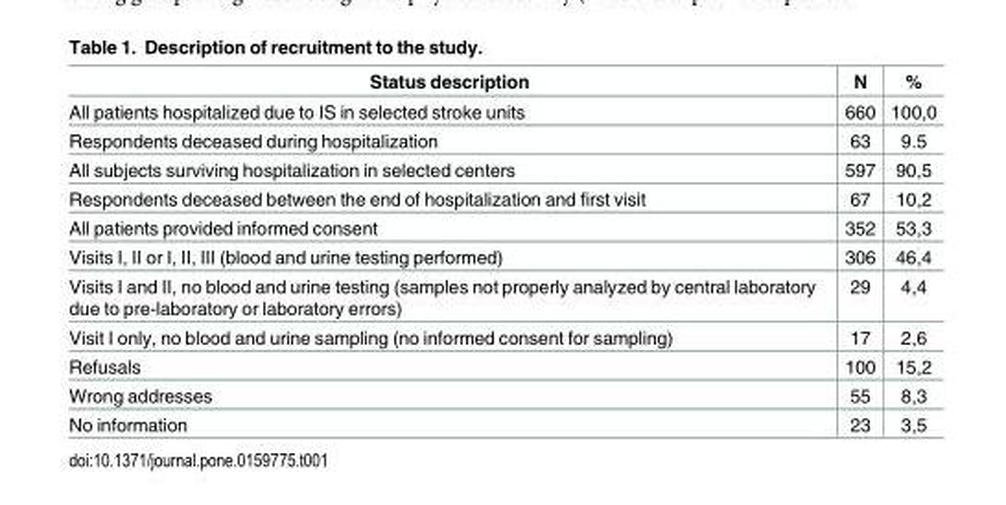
<table><thead><tr><td>Status description</td><td>N</td><td>%</td></tr></thead><tbody><tr><td>All patients hospitalized due to IS in selected stroke units</td><td>660</td><td>100,0</td></tr><tr><td>Respondents deceased during hospitalization</td><td>63</td><td>9.5</td></tr><tr><td>All subjects surviving hospitalization in selected centers</td><td>597</td><td>90,5</td></tr><tr><td>Respondents deceased between the end of hospitalization and first visit</td><td>67</td><td>10,2</td></tr><tr><td>All patients provided informed consent</td><td>352</td><td>53,3</td></tr><tr><td>Visits I, II or I, II, III (blood and urine testing performed)</td><td>306</td><td>46,4</td></tr><tr><td>Visits I and II, no blood and urine testing (samples not properly analyzed by central laboratory due to pre-laboratory or laboratory errors)</td><td>29</td><td>4,4</td></tr><tr><td>Visit I only, no blood and urine sampling (no informed consent for sampling)</td><td>17</td><td>2,6</td></tr><tr><td>Refusals</td><td>100</td><td>15,2</td></tr><tr><td>Wrong addresses</td><td>55</td><td>8,3</td></tr><tr><td>No information</td><td>23</td><td>3,5</td></tr></tbody></table>